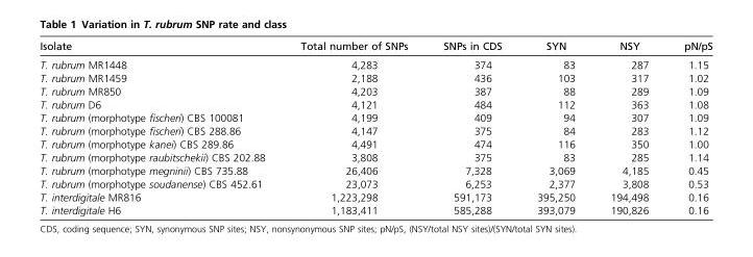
<table><thead><tr><td>Isolate</td><td>Total number of SNPs</td><td>SNPs in CDS</td><td>SYN</td><td>NSY</td><td>pN/pS</td></tr></thead><tbody><tr><td>T. rubrum MR1448</td><td>4,283</td><td>374</td><td>83</td><td>287</td><td>1.15</td></tr><tr><td>T. rubrum MR1459</td><td>2,188</td><td>436</td><td>103</td><td>317</td><td>1.02</td></tr><tr><td>T. rubrum MR850</td><td>4,203</td><td>387</td><td>88</td><td>289</td><td>1.09</td></tr><tr><td>T. rubrum D6</td><td>4,121</td><td>484</td><td>112</td><td>363</td><td>1.08</td></tr><tr><td>T. rubrum (morphotype fischeri) CBS 100081</td><td>4,199</td><td>409</td><td>94</td><td>307</td><td>1.09</td></tr><tr><td>T. rubrum (morphotype fischeri) CBS 288.86</td><td>4,147</td><td>375</td><td>84</td><td>283</td><td>1.12</td></tr><tr><td>T. rubrum (morphotype kanei) CBS 289.86</td><td>4,491</td><td>474</td><td>116</td><td>350</td><td>1.00</td></tr><tr><td>T. rubrum (morphotype raubitschekii) CBS 202.88</td><td>3,808</td><td>375</td><td>83</td><td>285</td><td>1.14</td></tr><tr><td>T. rubrum (morphotype megninii) CBS 735.88</td><td>26,406</td><td>7,328</td><td>3,069</td><td>4,185</td><td>0.45</td></tr><tr><td>T. rubrum (morphotype soudanense) CBS 452.61</td><td>23,073</td><td>6,253</td><td>2,377</td><td>3,808</td><td>0.53</td></tr><tr><td>T. interdigitale MR816</td><td>1,223,298</td><td>591,173</td><td>395,250</td><td>194,498</td><td>0.16</td></tr><tr><td>T. interdigitale H6</td><td>1,183,411</td><td>585,288</td><td>393,079</td><td>190,826</td><td>0.16</td></tr></tbody></table>